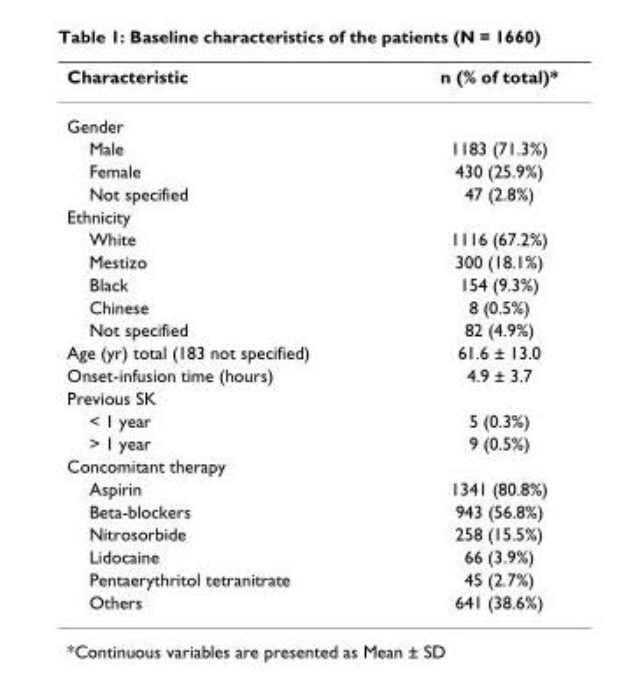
<table><thead><tr><td>Characteristic</td><td>n (% of total)*</td></tr></thead><tbody><tr><td colspan="2">Gender</td></tr><tr><td>Male</td><td>1183 (71.3%)</td></tr><tr><td>Female</td><td>430 (25.9%)</td></tr><tr><td>Not specified</td><td>47 (2.8%)</td></tr><tr><td colspan="2">Ethnicity</td></tr><tr><td>White</td><td>1116 (67.2%)</td></tr><tr><td>Mestizo</td><td>300 (18.1%)</td></tr><tr><td>Black</td><td>154 (9.3%)</td></tr><tr><td>Chinese</td><td>8 (0.5%)</td></tr><tr><td>Not specified</td><td>82 (4.9%)</td></tr><tr><td>Age (yr) total (183 not specified)</td><td>61.6 ± 13.0</td></tr><tr><td>Onset-infusion time (hours)</td><td>4.9 ± 3.7</td></tr><tr><td colspan="2">Previous SK</td></tr><tr><td>&lt; 1 year</td><td>5 (0.3%)</td></tr><tr><td>&gt; 1 year</td><td>9 (0.5%)</td></tr><tr><td colspan="2">Concomitant therapy</td></tr><tr><td>Aspirin</td><td>1341 (80.8%)</td></tr><tr><td>Beta-blockers</td><td>943 (56.8%)</td></tr><tr><td>Nitrosorbide</td><td>258 (15.5%)</td></tr><tr><td>Lidocaine</td><td>66 (3.9%)</td></tr><tr><td>Pentaerythritol tetranitrate</td><td>45 (2.7%)</td></tr><tr><td>Others</td><td>641 (38.6%)</td></tr></tbody></table>